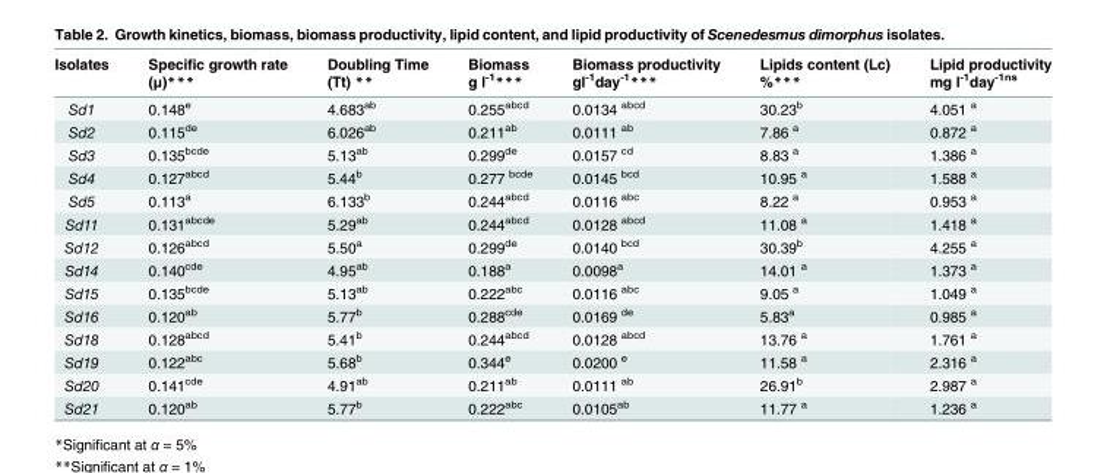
<table><thead><tr><td>Isolates</td><td>Specific growth rate (μ)***</td><td>Doubling Time (Tt) **</td><td>Biomass g l<sup>-1</sup>***</td><td>Biomass productivity gl<sup>-1</sup>day<sup>-1</sup>***</td><td>Lipids content (Lc) %***</td><td>Lipid productivity mg l<sup>-1</sup>day<sup>-1ns</sup></td></tr></thead><tbody><tr><td>Sd1</td><td>0.148<sup>e</sup></td><td>4.683<sup>ab</sup></td><td>0.255<sup>abcd</sup></td><td>0.0134 <sup>abcd</sup></td><td>30.23<sup>b</sup></td><td>4.051 <sup>a</sup></td></tr><tr><td>Sd2</td><td>0.115<sup>de</sup></td><td>6.026<sup>ab</sup></td><td>0.211<sup>ab</sup></td><td>0.0111 <sup>ab</sup></td><td>7.86 <sup>a</sup></td><td>0.872 <sup>a</sup></td></tr><tr><td>Sd3</td><td>0.135<sup>bcde</sup></td><td>5.13<sup>ab</sup></td><td>0.299<sup>de</sup></td><td>0.0157 <sup>cd</sup></td><td>8.83 <sup>a</sup></td><td>1.386 <sup>a</sup></td></tr><tr><td>Sd4</td><td>0.127<sup>abcd</sup></td><td>5.44<sup>b</sup></td><td>0.277 <sup>bcde</sup></td><td>0.0145 <sup>bcd</sup></td><td>10.95 <sup>a</sup></td><td>1.588 <sup>a</sup></td></tr><tr><td>Sd5</td><td>0.113<sup>a</sup></td><td>6.133<sup>b</sup></td><td>0.244<sup>abcd</sup></td><td>0.0116 <sup>abc</sup></td><td>8.22 <sup>a</sup></td><td>0.953 <sup>a</sup></td></tr><tr><td>Sd11</td><td>0.131<sup>abcde</sup></td><td>5.29<sup>ab</sup></td><td>0.244<sup>abcd</sup></td><td>0.0128 <sup>abcd</sup></td><td>11.08 <sup>a</sup></td><td>1.418 <sup>a</sup></td></tr><tr><td>Sd12</td><td>0.126<sup>abcd</sup></td><td>5.50<sup>a</sup></td><td>0.299<sup>de</sup></td><td>0.0140 <sup>bcd</sup></td><td>30.39<sup>b</sup></td><td>4.255 <sup>a</sup></td></tr><tr><td>Sd14</td><td>0.140<sup>cde</sup></td><td>4.95<sup>ab</sup></td><td>0.188<sup>a</sup></td><td>0.0098<sup>a</sup></td><td>14.01 <sup>a</sup></td><td>1.373 <sup>a</sup></td></tr><tr><td>Sd15</td><td>0.135<sup>bcde</sup></td><td>5.13<sup>ab</sup></td><td>0.222<sup>abc</sup></td><td>0.0116 <sup>abc</sup></td><td>9.05 <sup>a</sup></td><td>1.049 <sup>a</sup></td></tr><tr><td>Sd16</td><td>0.120<sup>ab</sup></td><td>5.77<sup>b</sup></td><td>0.288<sup>cde</sup></td><td>0.0169 <sup>de</sup></td><td>5.83<sup>a</sup></td><td>0.985 <sup>a</sup></td></tr><tr><td>Sd18</td><td>0.128<sup>abcd</sup></td><td>5.41<sup>b</sup></td><td>0.244<sup>abcd</sup></td><td>0.0128 <sup>abcd</sup></td><td>13.76 <sup>a</sup></td><td>1.761 <sup>a</sup></td></tr><tr><td>Sd19</td><td>0.122<sup>abc</sup></td><td>5.68<sup>b</sup></td><td>0.344<sup>e</sup></td><td>0.0200 <sup>e</sup></td><td>11.58 <sup>a</sup></td><td>2.316 <sup>a</sup></td></tr><tr><td>Sd20</td><td>0.141<sup>cde</sup></td><td>4.91<sup>ab</sup></td><td>0.211<sup>ab</sup></td><td>0.0111 <sup>ab</sup></td><td>26.91<sup>b</sup></td><td>2.987 <sup>a</sup></td></tr><tr><td>Sd21</td><td>0.120<sup>ab</sup></td><td>5.77<sup>b</sup></td><td>0.222<sup>abc</sup></td><td>0.0105<sup>ab</sup></td><td>11.77 <sup>a</sup></td><td>1.236 <sup>a</sup></td></tr></tbody></table>